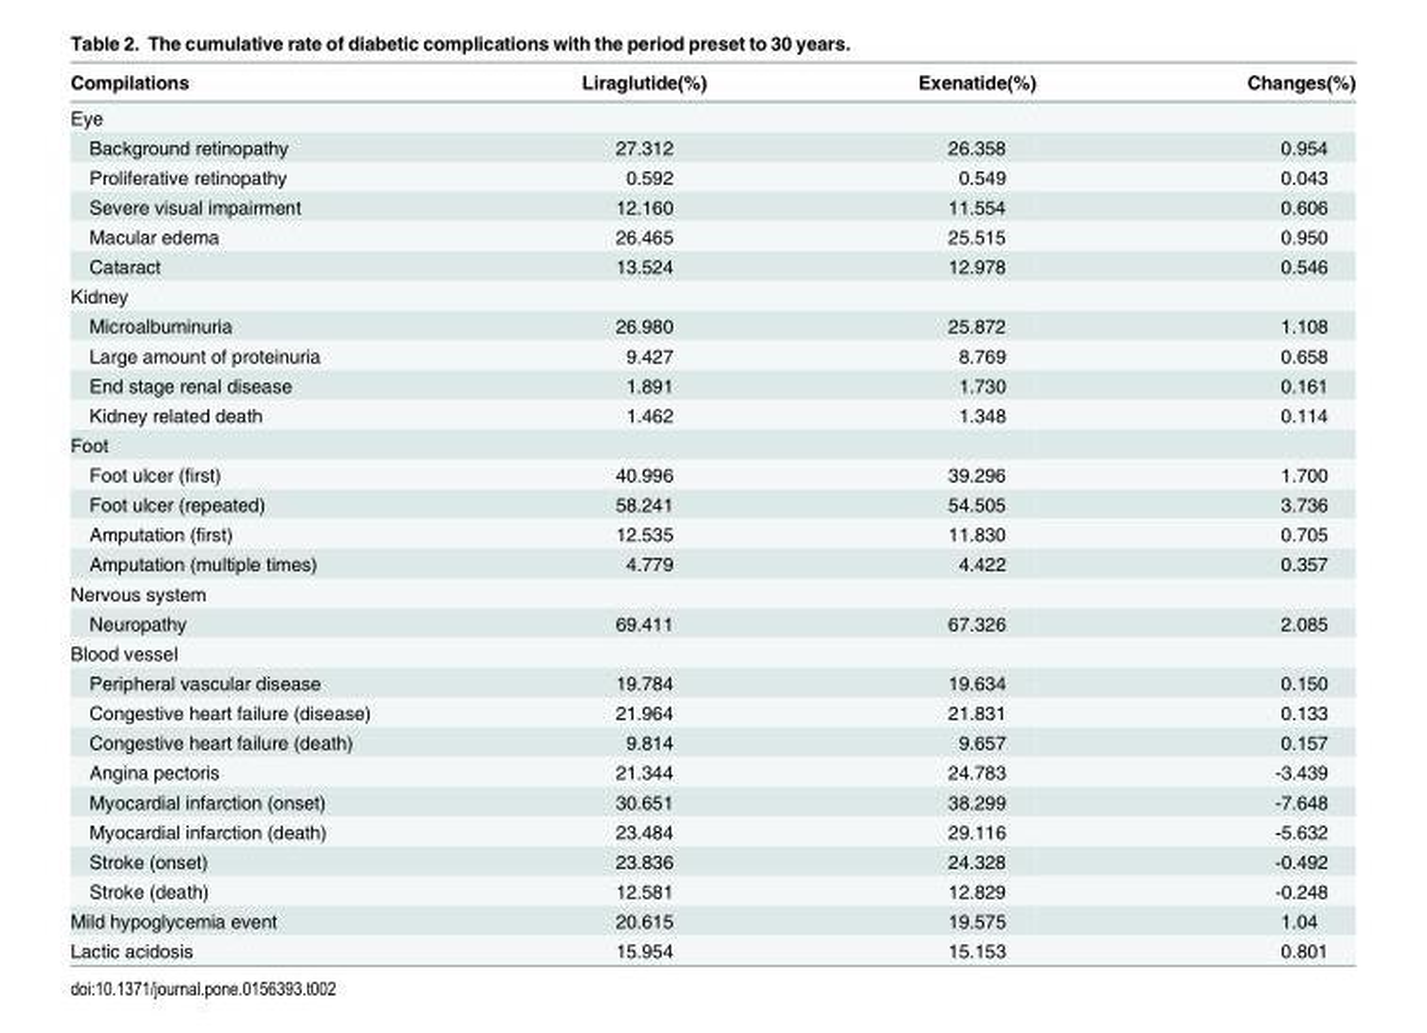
<table><thead><tr><td>Compilations</td><td>Liraglutide(%)</td><td>Exenatide(%)</td><td>Changes(%)</td></tr></thead><tbody><tr><td colspan="4">Eye</td></tr><tr><td>Background retinopathy</td><td>27.312</td><td>26.358</td><td>0.954</td></tr><tr><td>Proliferative retinopathy</td><td>0.592</td><td>0.549</td><td>0.043</td></tr><tr><td>Severe visual impairment</td><td>12.160</td><td>11.554</td><td>0.606</td></tr><tr><td>Macular edema</td><td>26.465</td><td>25.515</td><td>0.950</td></tr><tr><td>Cataract</td><td>13.524</td><td>12.978</td><td>0.546</td></tr><tr><td colspan="4">Kidney</td></tr><tr><td>Microalbuminuria</td><td>26.980</td><td>25.872</td><td>1.108</td></tr><tr><td>Large amount of proteinuria</td><td>9.427</td><td>8.769</td><td>0.658</td></tr><tr><td>End stage renal disease</td><td>1.891</td><td>1.730</td><td>0.161</td></tr><tr><td>Kidney related death</td><td>1.462</td><td>1.348</td><td>0.114</td></tr><tr><td colspan="4">Foot</td></tr><tr><td>Foot ulcer (first)</td><td>40.996</td><td>39.296</td><td>1.700</td></tr><tr><td>Foot ulcer (repeated)</td><td>58.241</td><td>54.505</td><td>3.736</td></tr><tr><td>Amputation (first)</td><td>12.535</td><td>11.830</td><td>0.705</td></tr><tr><td>Amputation (multiple times)</td><td>4.779</td><td>4.422</td><td>0.357</td></tr><tr><td colspan="4">Nervous system</td></tr><tr><td>Neuropathy</td><td>69.411</td><td>67.326</td><td>2.085</td></tr><tr><td colspan="4">Blood vessel</td></tr><tr><td>Peripheral vascular disease</td><td>19.784</td><td>19.634</td><td>0.150</td></tr><tr><td>Congestive heart failure (disease)</td><td>21.964</td><td>21.831</td><td>0.133</td></tr><tr><td>Congestive heart failure (death)</td><td>9.814</td><td>9.657</td><td>0.157</td></tr><tr><td>Angina pectoris</td><td>21.344</td><td>24.783</td><td>-3.439</td></tr><tr><td>Myocardial infarction (onset)</td><td>30.651</td><td>38.299</td><td>-7.648</td></tr><tr><td>Myocardial infarction (death)</td><td>23.484</td><td>29.116</td><td>-5.632</td></tr><tr><td>Stroke (onset)</td><td>23.836</td><td>24.328</td><td>-0.492</td></tr><tr><td>Stroke (death)</td><td>12.581</td><td>12.829</td><td>-0.248</td></tr><tr><td>Mild hypoglycemia event</td><td>20.615</td><td>19.575</td><td>1.04</td></tr><tr><td>Lactic acidosis</td><td>15.954</td><td>15.153</td><td>0.801</td></tr></tbody></table>